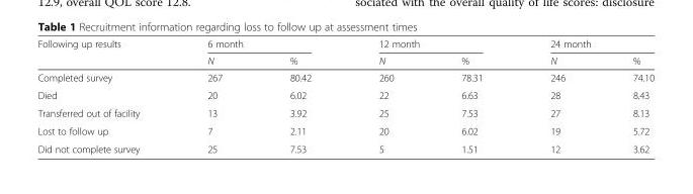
<table><thead><tr><td rowspan="2">Following up results</td><td colspan="2">6 month</td><td colspan="2">12 month</td><td colspan="2">24 month</td></tr><tr><td>N</td><td>%</td><td>N</td><td>%</td><td>N</td><td>%</td></tr></thead><tbody><tr><td>Completed survey</td><td>267</td><td>80.42</td><td>260</td><td>78.31</td><td>246</td><td>74.10</td></tr><tr><td>Died</td><td>20</td><td>6.02</td><td>22</td><td>6.63</td><td>28</td><td>8.43</td></tr><tr><td>Transferred out of facility</td><td>13</td><td>3.92</td><td>25</td><td>7.53</td><td>27</td><td>8.13</td></tr><tr><td>Lost to follow up</td><td>7</td><td>2.11</td><td>20</td><td>6.02</td><td>19</td><td>5.72</td></tr><tr><td>Did not complete survey</td><td>25</td><td>7.53</td><td>5</td><td>1.51</td><td>12</td><td>3.62</td></tr></tbody></table>